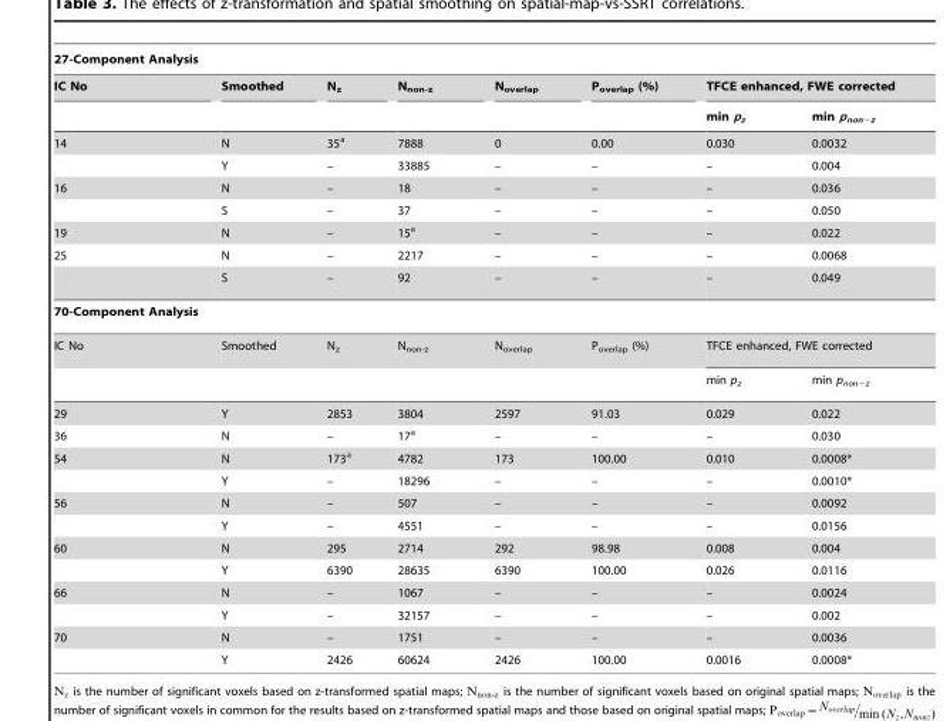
<table><thead><tr><td colspan="8">27-Component Analysis</td></tr><tr><td rowspan="2">IC No</td><td rowspan="2">Smoothed</td><td rowspan="2">N<sub>z</sub></td><td rowspan="2">N<sub>non-z</sub></td><td rowspan="2">N<sub>overlap</sub></td><td rowspan="2">P<sub>overlap</sub> (%)</td><td colspan="2">TFCE enhanced, FWE corrected</td></tr><tr><td>min p<sub>z</sub></td><td>min p<sub>non−z</sub></td></tr></thead><tbody><tr><td rowspan="2">14</td><td>N</td><td>35<sup>a</sup></td><td>7888</td><td>0</td><td>0.00</td><td>0.030</td><td>0.0032</td></tr><tr><td>Y</td><td>–</td><td>33885</td><td>–</td><td>–</td><td>–</td><td>0.004</td></tr><tr><td rowspan="2">16</td><td>N</td><td>–</td><td>18</td><td>–</td><td>–</td><td>–</td><td>0.036</td></tr><tr><td>S</td><td>–</td><td>37</td><td>–</td><td>–</td><td>–</td><td>0.050</td></tr><tr><td>19</td><td>N</td><td>–</td><td>15<sup>a</sup></td><td>–</td><td>–</td><td>–</td><td>0.022</td></tr><tr><td rowspan="2">25</td><td>N</td><td>–</td><td>2217</td><td>–</td><td>–</td><td>–</td><td>0.0068</td></tr><tr><td>S</td><td>–</td><td>92</td><td>–</td><td>–</td><td>–</td><td>0.049</td></tr><tr><td colspan="8">70-Component Analysis</td></tr><tr><td rowspan="2">IC No</td><td>Smoothed</td><td>N<sub>z</sub></td><td>N<sub>non-z</sub></td><td>N<sub>overlap</sub></td><td>P<sub>overlap</sub> (%)</td><td colspan="2">TFCE enhanced, FWE corrected</td></tr><tr><td></td><td></td><td></td><td></td><td></td><td>min p<sub>z</sub></td><td>min p<sub>non−z</sub></td></tr><tr><td>29</td><td>Y</td><td>2853</td><td>3804</td><td>2597</td><td>91.03</td><td>0.029</td><td>0.022</td></tr><tr><td>36</td><td>N</td><td>–</td><td>17<sup>a</sup></td><td>–</td><td>–</td><td>–</td><td>0.030</td></tr><tr><td rowspan="2">54</td><td>N</td><td>173<sup>a</sup></td><td>4782</td><td>173</td><td>100.00</td><td>0.010</td><td>0.0008*</td></tr><tr><td>Y</td><td>–</td><td>18296</td><td>–</td><td>–</td><td>–</td><td>0.0010*</td></tr><tr><td rowspan="2">56</td><td>N</td><td>–</td><td>507</td><td>–</td><td>–</td><td>–</td><td>0.0092</td></tr><tr><td>Y</td><td>–</td><td>4551</td><td>–</td><td>–</td><td>–</td><td>0.0156</td></tr><tr><td rowspan="2">60</td><td>N</td><td>295</td><td>2714</td><td>292</td><td>98.98</td><td>0.008</td><td>0.004</td></tr><tr><td>Y</td><td>6390</td><td>28635</td><td>6390</td><td>100.00</td><td>0.026</td><td>0.0116</td></tr><tr><td rowspan="2">66</td><td>N</td><td>–</td><td>1067</td><td>–</td><td>–</td><td>–</td><td>0.0024</td></tr><tr><td>Y</td><td>–</td><td>32157</td><td>–</td><td>–</td><td>–</td><td>0.002</td></tr><tr><td rowspan="2">70</td><td>N</td><td>–</td><td>1751</td><td>–</td><td>–</td><td>–</td><td>0.0036</td></tr><tr><td>Y</td><td>2426</td><td>60624</td><td>2426</td><td>100.00</td><td>0.0016</td><td>0.0008*</td></tr></tbody></table>